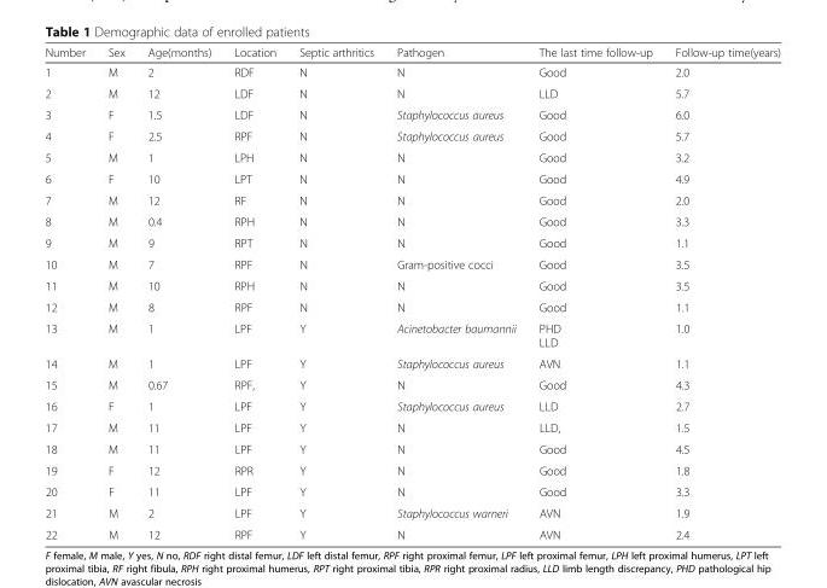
<table><thead><tr><td>Number</td><td>Sex</td><td>Age(months)</td><td>Location</td><td>Septic arthritics</td><td>Pathogen</td><td>The last time follow-up</td><td>Follow-up time(years)</td></tr></thead><tbody><tr><td>1</td><td>M</td><td>2</td><td>RDF</td><td>N</td><td>N</td><td>Good</td><td>2.0</td></tr><tr><td>2</td><td>M</td><td>12</td><td>LDF</td><td>N</td><td>N</td><td>LLD</td><td>5.7</td></tr><tr><td>3</td><td>F</td><td>1.5</td><td>LDF</td><td>N</td><td>Staphylococcus aureus</td><td>Good</td><td>6.0</td></tr><tr><td>4</td><td>F</td><td>2.5</td><td>RPF</td><td>N</td><td>Staphylococcus aureus</td><td>Good</td><td>5.7</td></tr><tr><td>5</td><td>M</td><td>1</td><td>LPH</td><td>N</td><td>N</td><td>Good</td><td>3.2</td></tr><tr><td>6</td><td>F</td><td>10</td><td>LPT</td><td>N</td><td>N</td><td>Good</td><td>4.9</td></tr><tr><td>7</td><td>M</td><td>12</td><td>RF</td><td>N</td><td>N</td><td>Good</td><td>2.0</td></tr><tr><td>8</td><td>M</td><td>0.4</td><td>RPH</td><td>N</td><td>N</td><td>Good</td><td>3.3</td></tr><tr><td>9</td><td>M</td><td>9</td><td>RPT</td><td>N</td><td>N</td><td>Good</td><td>1.1</td></tr><tr><td>10</td><td>M</td><td>7</td><td>RPF</td><td>N</td><td>Gram-positive cocci</td><td>Good</td><td>3.5</td></tr><tr><td>11</td><td>M</td><td>10</td><td>RPH</td><td>N</td><td>N</td><td>Good</td><td>3.5</td></tr><tr><td>12</td><td>M</td><td>8</td><td>RPF</td><td>N</td><td>N</td><td>Good</td><td>1.1</td></tr><tr><td>13</td><td>M</td><td>1</td><td>LPF</td><td>Y</td><td>Acinetobacter baumannii</td><td>PHD LLD</td><td>1.0</td></tr><tr><td>14</td><td>M</td><td>1</td><td>LPF</td><td>Y</td><td>Staphylococcus aureus</td><td>AVN</td><td>1.1</td></tr><tr><td>15</td><td>M</td><td>0.67</td><td>RPF,</td><td>Y</td><td>N</td><td>Good</td><td>4.3</td></tr><tr><td>16</td><td>F</td><td>1</td><td>LPF</td><td>Y</td><td>Staphylococcus aureus</td><td>LLD</td><td>2.7</td></tr><tr><td>17</td><td>M</td><td>11</td><td>LPF</td><td>Y</td><td>N</td><td>LLD,</td><td>1.5</td></tr><tr><td>18</td><td>M</td><td>11</td><td>LPF</td><td>Y</td><td>N</td><td>Good</td><td>4.5</td></tr><tr><td>19</td><td>F</td><td>12</td><td>RPR</td><td>Y</td><td>N</td><td>Good</td><td>1.8</td></tr><tr><td>20</td><td>F</td><td>11</td><td>LPF</td><td>Y</td><td>N</td><td>Good</td><td>3.3</td></tr><tr><td>21</td><td>M</td><td>2</td><td>LPF</td><td>Y</td><td>Staphylococcus warneri</td><td>AVN</td><td>1.9</td></tr><tr><td>22</td><td>M</td><td>12</td><td>RPF</td><td>Y</td><td>N</td><td>AVN</td><td>2.4</td></tr></tbody></table>